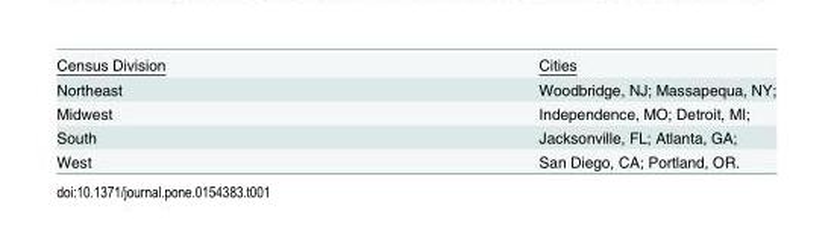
<table><tbody><tr><td>Census Division</td><td>Cities</td></tr><tr><td>Northeast</td><td>Woodbridge, NJ; Massapequa, NY;</td></tr><tr><td>Midwest</td><td>Independence, MO; Detroit, MI;</td></tr><tr><td>South</td><td>Jacksonville, FL; Atlanta, GA;</td></tr><tr><td>West</td><td>San Diego, CA; Portland, OR.</td></tr></tbody></table>